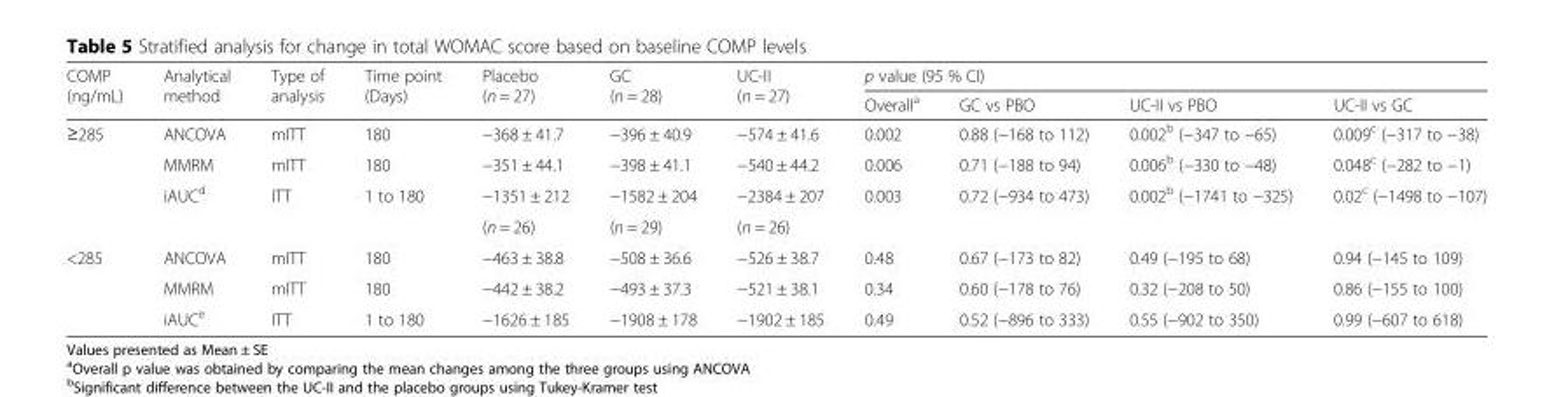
<table><thead><tr><td rowspan="2">COMP (ng/mL)</td><td rowspan="2">Analytical method</td><td rowspan="2">Type of analysis</td><td rowspan="2">Time point (Days)</td><td rowspan="2">Placebo (n = 27)</td><td rowspan="2">GC (n = 28)</td><td rowspan="2">UC-II (n = 27)</td><td colspan="4">p value (95 % CI)</td></tr><tr><td>Overall<sup>a</sup></td><td>GC vs PBO</td><td>UC-II vs PBO</td><td>UC-II vs GC</td></tr></thead><tbody><tr><td rowspan="4">≥285</td><td>ANCOVA</td><td>mITT</td><td>180</td><td>−368 ± 41.7</td><td>−396 ± 40.9</td><td>−574 ± 41.6</td><td>0.002</td><td>0.88 (−168 to 112)</td><td>0.002<sup>b</sup> (−347 to −65)</td><td>0.009<sup>c</sup> (−317 to −38)</td></tr><tr><td>MMRM</td><td>mITT</td><td>180</td><td>−351 ± 44.1</td><td>−398 ± 41.1</td><td>−540 ± 44.2</td><td>0.006</td><td>0.71 (−188 to 94)</td><td>0.006<sup>b</sup> (−330 to −48)</td><td>0.048<sup>c</sup> (−282 to −1)</td></tr><tr><td>iAUC<sup>d</sup></td><td>ITT</td><td>1 to 180</td><td>−1351 ± 212</td><td>−1582 ± 204</td><td>−2384 ± 207</td><td>0.003</td><td>0.72 (−934 to 473)</td><td>0.002<sup>b</sup> (−1741 to −325)</td><td>0.02<sup>c</sup> (−1498 to −107)</td></tr><tr><td></td><td></td><td></td><td>(n = 26)</td><td>(n = 29)</td><td>(n = 26)</td><td></td><td></td><td></td><td></td></tr><tr><td rowspan="3">&lt;285</td><td>ANCOVA</td><td>mITT</td><td>180</td><td>−463 ± 38.8</td><td>−508 ± 36.6</td><td>−526 ± 38.7</td><td>0.48</td><td>0.67 (−173 to 82)</td><td>0.49 (−195 to 68)</td><td>0.94 (−145 to 109)</td></tr><tr><td>MMRM</td><td>mITT</td><td>180</td><td>−442 ± 38.2</td><td>−493 ± 37.3</td><td>−521 ± 38.1</td><td>0.34</td><td>0.60 (−178 to 76)</td><td>0.32 (−208 to 50)</td><td>0.86 (−155 to 100)</td></tr><tr><td>iAUC<sup>e</sup></td><td>ITT</td><td>1 to 180</td><td>−1626 ± 185</td><td>−1908 ± 178</td><td>−1902 ± 185</td><td>0.49</td><td>0.52 (−896 to 333)</td><td>0.55 (−902 to 350)</td><td>0.99 (−607 to 618)</td></tr></tbody></table>